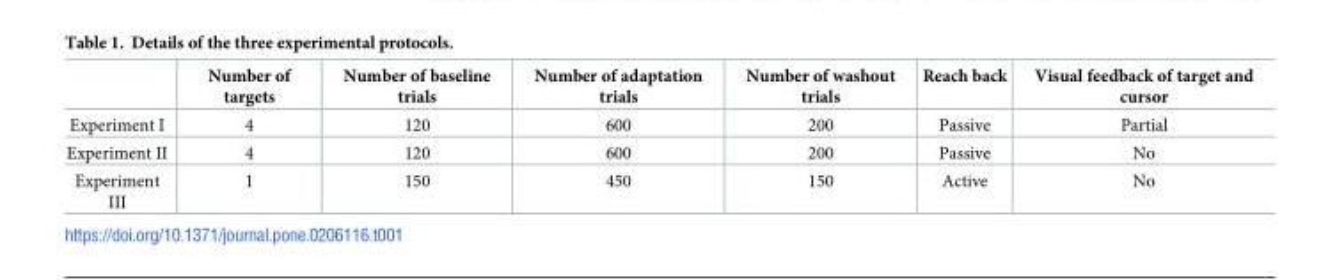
<table><thead><tr><td></td><td>Number of targets</td><td>Number of baseline trials</td><td>Number of adaptation trials</td><td>Number of washout trials</td><td>Reach back</td><td>Visual feedback of target and cursor</td></tr></thead><tbody><tr><td>Experiment I</td><td>4</td><td>120</td><td>600</td><td>200</td><td>Passive</td><td>Partial</td></tr><tr><td>Experiment II</td><td>4</td><td>120</td><td>600</td><td>200</td><td>Passive</td><td>No</td></tr><tr><td>Experiment III</td><td>1</td><td>150</td><td>450</td><td>150</td><td>Active</td><td>No</td></tr></tbody></table>